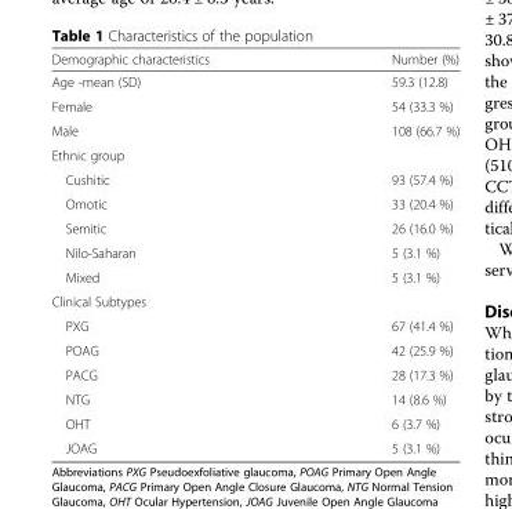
<table><thead><tr><td>Demographic characteristics</td><td>Number (%)</td></tr></thead><tbody><tr><td>Age -mean (SD)</td><td>59.3 (12.8)</td></tr><tr><td>Female</td><td>54 (33.3 %)</td></tr><tr><td>Male</td><td>108 (66.7 %)</td></tr><tr><td colspan="2">Ethnic group</td></tr><tr><td>Cushitic</td><td>93 (57.4 %)</td></tr><tr><td>Omotic</td><td>33 (20.4 %)</td></tr><tr><td>Semitic</td><td>26 (16.0 %)</td></tr><tr><td>Nilo-Saharan</td><td>5 (3.1 %)</td></tr><tr><td>Mixed</td><td>5 (3.1 %)</td></tr><tr><td colspan="2">Clinical Subtypes</td></tr><tr><td>PXG</td><td>67 (41.4 %)</td></tr><tr><td>POAG</td><td>42 (25.9 %)</td></tr><tr><td>PACG</td><td>28 (17.3 %)</td></tr><tr><td>NTG</td><td>14 (8.6 %)</td></tr><tr><td>OHT</td><td>6 (3.7 %)</td></tr><tr><td>JOAG</td><td>5 (3.1 %)</td></tr></tbody></table>